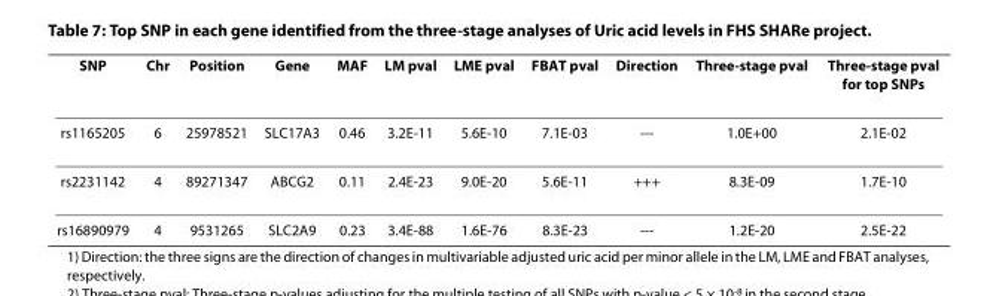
<table><thead><tr><td>SNP</td><td>Chr</td><td>Position</td><td>Gene</td><td>MAF</td><td>LM pval</td><td>LME pval</td><td>FBAT pval</td><td>Direction</td><td>Three-stage pval</td><td>Three-stage pval for top SNPs</td></tr></thead><tbody><tr><td>rs1165205</td><td>6</td><td>25978521</td><td>SLC17A3</td><td>0.46</td><td>3.2E-11</td><td>5.6E-10</td><td>7.1E-03</td><td>---</td><td>1.0E+00</td><td>2.1E-02</td></tr><tr><td>rs2231142</td><td>4</td><td>89271347</td><td>ABCG2</td><td>0.11</td><td>2.4E-23</td><td>9.0E-20</td><td>5.6E-11</td><td>+++</td><td>8.3E-09</td><td>1.7E-10</td></tr><tr><td>rs16890979</td><td>4</td><td>9531265</td><td>SLC2A9</td><td>0.23</td><td>3.4E-88</td><td>1.6E-76</td><td>8.3E-23</td><td>---</td><td>1.2E-20</td><td>2.5E-22</td></tr></tbody></table>